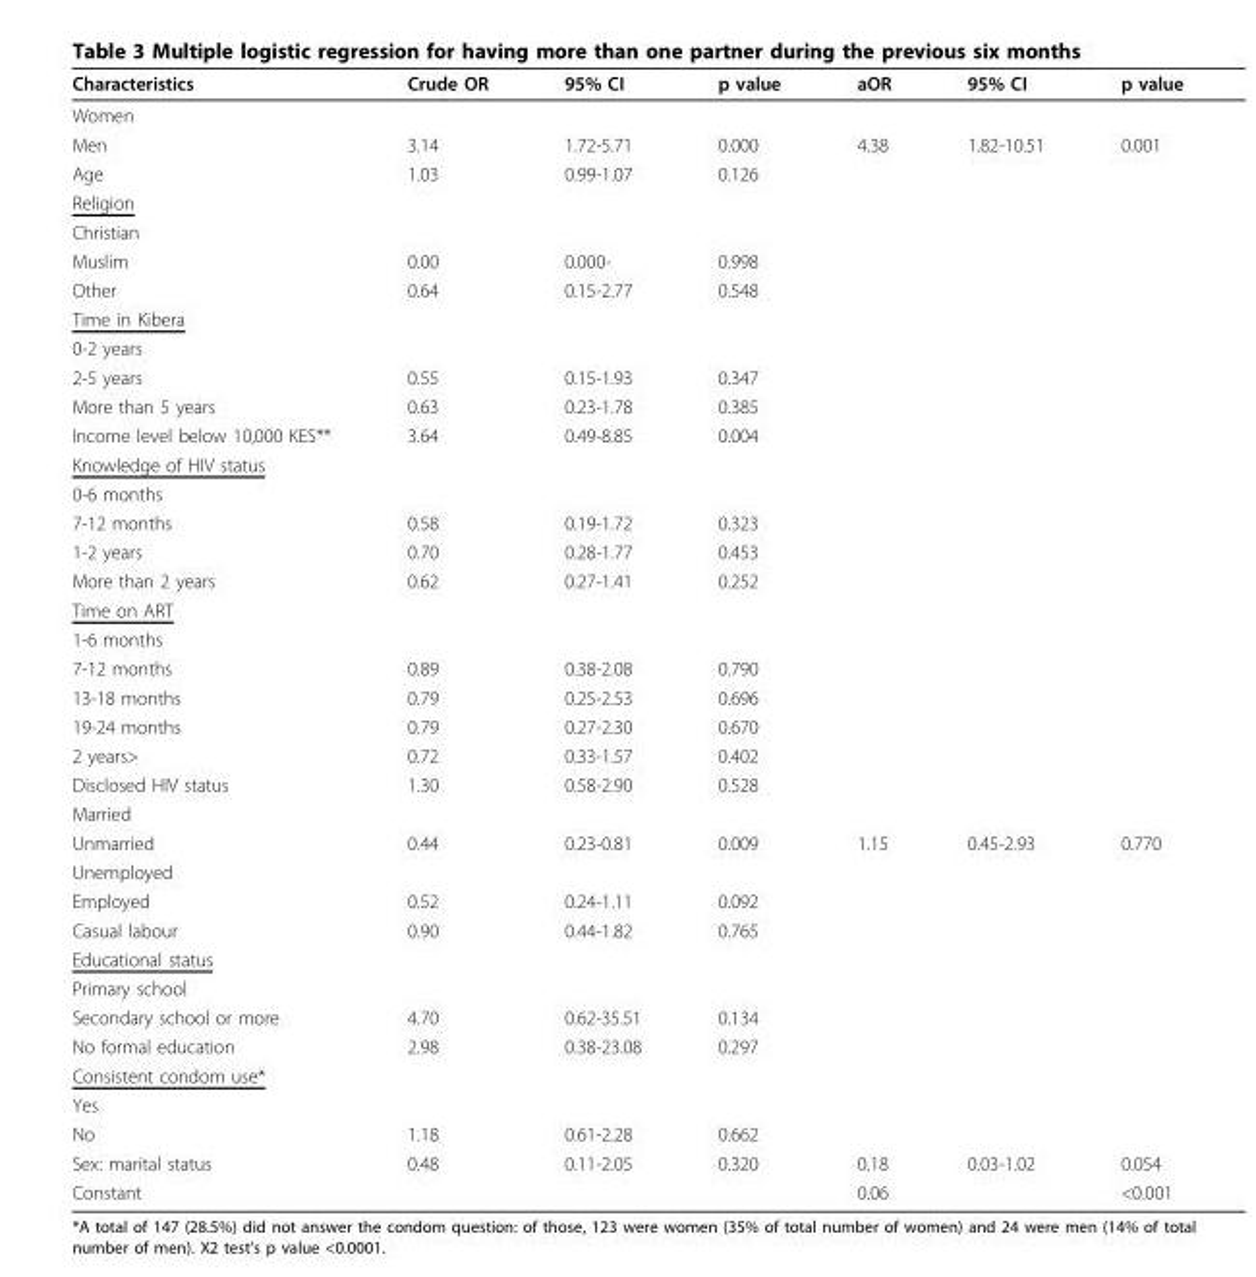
<table><thead><tr><td>Characteristics</td><td>Crude OR</td><td>95% CI</td><td>p value</td><td>aOR</td><td>95% CI</td><td>p value</td></tr></thead><tbody><tr><td colspan="7">Women</td></tr><tr><td>Men</td><td>3.14</td><td>1.72-5.71</td><td>0.000</td><td>4.38</td><td>1.82-10.51</td><td>0.001</td></tr><tr><td>Age</td><td>1.03</td><td>0.99-1.07</td><td>0.126</td><td></td><td></td><td></td></tr><tr><td colspan="7">Religion</td></tr><tr><td colspan="7">Christian</td></tr><tr><td>Muslim</td><td>0.00</td><td>0.000-</td><td>0.998</td><td></td><td></td><td></td></tr><tr><td>Other</td><td>0.64</td><td>0.15-2.77</td><td>0.548</td><td></td><td></td><td></td></tr><tr><td colspan="7">Time in Kibera</td></tr><tr><td colspan="7">0-2 years</td></tr><tr><td>2-5 years</td><td>0.55</td><td>0.15-1.93</td><td>0.347</td><td></td><td></td><td></td></tr><tr><td>More than 5 years</td><td>0.63</td><td>0.23-1.78</td><td>0.385</td><td></td><td></td><td></td></tr><tr><td>Income level below 10,000 KES**</td><td>3.64</td><td>0.49-8.85</td><td>0.004</td><td></td><td></td><td></td></tr><tr><td colspan="7">Knowledge of HIV status</td></tr><tr><td colspan="7">0-6 months</td></tr><tr><td>7-12 months</td><td>0.58</td><td>0.19-1.72</td><td>0.323</td><td></td><td></td><td></td></tr><tr><td>1-2 years</td><td>0.70</td><td>0.28-1.77</td><td>0.453</td><td></td><td></td><td></td></tr><tr><td>More than 2 years</td><td>0.62</td><td>0.27-1.41</td><td>0.252</td><td></td><td></td><td></td></tr><tr><td colspan="7">Time on ART</td></tr><tr><td colspan="7">1-6 months</td></tr><tr><td>7-12 months</td><td>0.89</td><td>0.38-2.08</td><td>0.790</td><td></td><td></td><td></td></tr><tr><td>13-18 months</td><td>0.79</td><td>0.25-2.53</td><td>0.696</td><td></td><td></td><td></td></tr><tr><td>19-24 months</td><td>0.79</td><td>0.27-2.30</td><td>0.670</td><td></td><td></td><td></td></tr><tr><td>2 years&gt;</td><td>0.72</td><td>0.33-1.57</td><td>0.402</td><td></td><td></td><td></td></tr><tr><td>Disclosed HIV status</td><td>1.30</td><td>0.58-2.90</td><td>0.528</td><td></td><td></td><td></td></tr><tr><td colspan="7">Married</td></tr><tr><td>Unmarried</td><td>0.44</td><td>0.23-0.81</td><td>0.009</td><td>1.15</td><td>0.45-2.93</td><td>0.770</td></tr><tr><td colspan="7">Unemployed</td></tr><tr><td>Employed</td><td>0.52</td><td>0.24-1.11</td><td>0.092</td><td></td><td></td><td></td></tr><tr><td>Casual labour</td><td>0.90</td><td>0.44-1.82</td><td>0.765</td><td></td><td></td><td></td></tr><tr><td colspan="7">Educational status</td></tr><tr><td colspan="7">Primary school</td></tr><tr><td>Secondary school or more</td><td>4.70</td><td>0.62-35.51</td><td>0.134</td><td></td><td></td><td></td></tr><tr><td>No formal education</td><td>2.98</td><td>0.38-23.08</td><td>0.297</td><td></td><td></td><td></td></tr><tr><td colspan="7">Consistent condom use*</td></tr><tr><td colspan="7">Yes</td></tr><tr><td>No</td><td>1.18</td><td>0.61-2.28</td><td>0.662</td><td></td><td></td><td></td></tr><tr><td>Sex: marital status</td><td>0.48</td><td>0.11-2.05</td><td>0.320</td><td>0.18</td><td>0.03-1.02</td><td>0.054</td></tr><tr><td>Constant</td><td></td><td></td><td></td><td>0.06</td><td></td><td>&lt;0.001</td></tr></tbody></table>